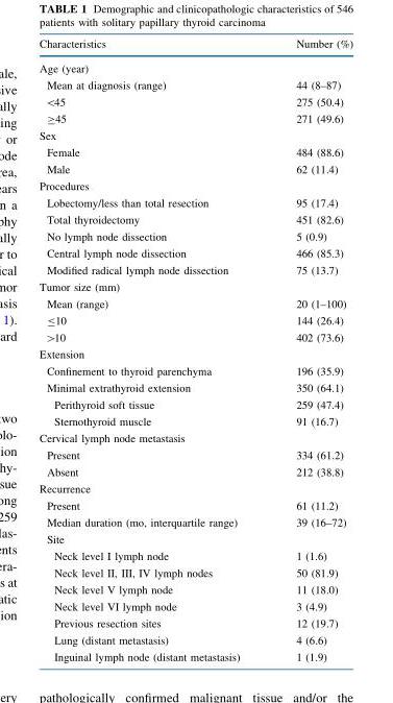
<table><thead><tr><td>Characteristics</td><td>Number (%)</td></tr></thead><tbody><tr><td colspan="2">Age (year)</td></tr><tr><td>Mean at diagnosis (range)</td><td>44 (8–87)</td></tr><tr><td>&lt;45</td><td>275 (50.4)</td></tr><tr><td>≥45</td><td>271 (49.6)</td></tr><tr><td colspan="2">Sex</td></tr><tr><td>Female</td><td>484 (88.6)</td></tr><tr><td>Male</td><td>62 (11.4)</td></tr><tr><td colspan="2">Procedures</td></tr><tr><td>Lobectomy/less than total resection</td><td>95 (17.4)</td></tr><tr><td>Total thyroidectomy</td><td>451 (82.6)</td></tr><tr><td>No lymph node dissection</td><td>5 (0.9)</td></tr><tr><td>Central lymph node dissection</td><td>466 (85.3)</td></tr><tr><td>Modified radical lymph node dissection</td><td>75 (13.7)</td></tr><tr><td colspan="2">Tumor size (mm)</td></tr><tr><td>Mean (range)</td><td>20 (1–100)</td></tr><tr><td>≤10</td><td>144 (26.4)</td></tr><tr><td>&gt;10</td><td>402 (73.6)</td></tr><tr><td colspan="2">Extension</td></tr><tr><td>Confinement to thyroid parenchyma</td><td>196 (35.9)</td></tr><tr><td>Minimal extrathyroid extension</td><td>350 (64.1)</td></tr><tr><td>Perithyroid soft tissue</td><td>259 (47.4)</td></tr><tr><td>Sternothyroid muscle</td><td>91 (16.7)</td></tr><tr><td colspan="2">Cervical lymph node metastasis</td></tr><tr><td>Present</td><td>334 (61.2)</td></tr><tr><td>Absent</td><td>212 (38.8)</td></tr><tr><td colspan="2">Recurrence</td></tr><tr><td>Present</td><td>61 (11.2)</td></tr><tr><td>Median duration (mo, interquartile range)</td><td>39 (16–72)</td></tr><tr><td colspan="2">Site</td></tr><tr><td>Neck level I lymph node</td><td>1 (1.6)</td></tr><tr><td>Neck level II, III, IV lymph nodes</td><td>50 (81.9)</td></tr><tr><td>Neck level V lymph node</td><td>11 (18.0)</td></tr><tr><td>Neck level VI lymph node</td><td>3 (4.9)</td></tr><tr><td>Previous resection sites</td><td>12 (19.7)</td></tr><tr><td>Lung (distant metastasis)</td><td>4 (6.6)</td></tr><tr><td>Inguinal lymph node (distant metastasis)</td><td>1 (1.9)</td></tr></tbody></table>